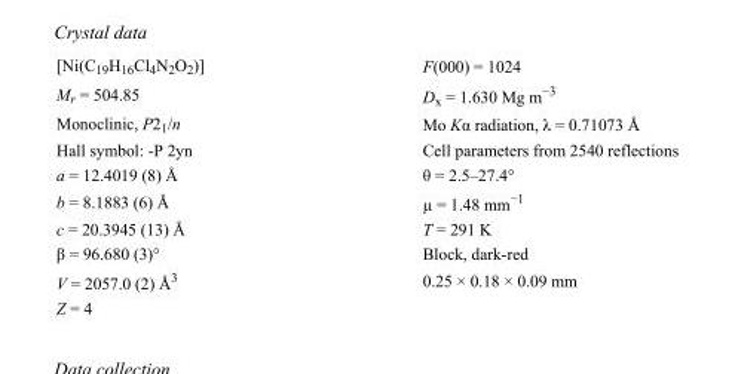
<table><tbody><tr><td>[Ni(C<sub>19</sub>H<sub>16</sub>Cl<sub>4</sub>N<sub>2</sub>O<sub>2</sub>)]</td><td>F(000) = 1024</td></tr><tr><td>M<sub>r</sub> = 504.85</td><td>D<sub>x</sub> = 1.630 Mg m<sup>−3</sup></td></tr><tr><td>Monoclinic, P2<sub>1</sub>/n</td><td>Mo Kα radiation, λ = 0.71073 Å</td></tr><tr><td>Hall symbol: -P 2yn</td><td>Cell parameters from 2540 reflections</td></tr><tr><td>a = 12.4019 (8) Å</td><td>θ = 2.5–27.4°</td></tr><tr><td>b = 8.1883 (6) Å</td><td>µ = 1.48 mm<sup>−1</sup></td></tr><tr><td>c = 20.3945 (13) Å</td><td>T = 291 K</td></tr><tr><td>β = 96.680 (3)°</td><td>Block, dark-red</td></tr><tr><td>V = 2057.0 (2) Å<sup>3</sup></td><td>0.25 × 0.18 × 0.09 mm</td></tr><tr><td>Z = 4</td><td></td></tr></tbody></table>